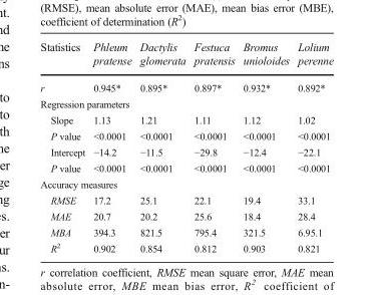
<table><thead><tr><td>Statistics</td><td>Phleum pratense</td><td>Dactylis glomerata</td><td>Festuca pratensis</td><td>Bromus unioloides</td><td>Lolium perenne</td></tr></thead><tbody><tr><td>r</td><td>0.945*</td><td>0.895*</td><td>0.897*</td><td>0.932*</td><td>0.892*</td></tr><tr><td colspan="6">Regression parameters</td></tr><tr><td>Slope</td><td>1.13</td><td>1.21</td><td>1.11</td><td>1.12</td><td>1.02</td></tr><tr><td>P value</td><td>&lt;0.0001</td><td>&lt;0.0001</td><td>&lt;0.0001</td><td>&lt;0.0001</td><td>&lt;0.0001</td></tr><tr><td>Intercept</td><td>−14.2</td><td>−11.5</td><td>−29.8</td><td>−12.4</td><td>−22.1</td></tr><tr><td>P value</td><td>&lt;0.0001</td><td>&lt;0.0001</td><td>&lt;0.0001</td><td>&lt;0.0001</td><td>&lt;0.0001</td></tr><tr><td colspan="6">Accuracy measures</td></tr><tr><td>RMSE</td><td>17.2</td><td>25.1</td><td>22.1</td><td>19.4</td><td>33.1</td></tr><tr><td>MAE</td><td>20.7</td><td>20.2</td><td>25.6</td><td>18.4</td><td>28.4</td></tr><tr><td>MBA</td><td>394.3</td><td>821.5</td><td>795.4</td><td>321.5</td><td>6.95.1</td></tr><tr><td>R<sup>2</sup></td><td>0.902</td><td>0.854</td><td>0.812</td><td>0.903</td><td>0.821</td></tr></tbody></table>